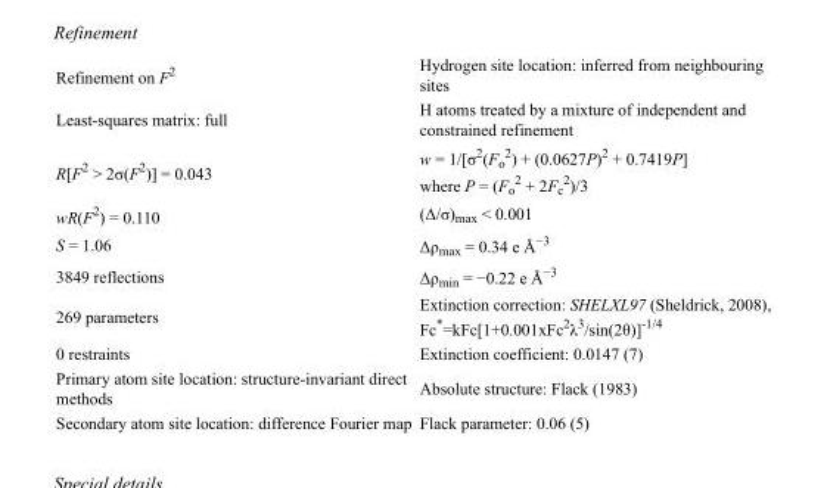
<table><tbody><tr><td>Refinement on F<sup>2</sup></td><td>Hydrogen site location: inferred from neighbouring sites</td></tr><tr><td>Least-squares matrix: full</td><td>H atoms treated by a mixture of independent and constrained refinement</td></tr><tr><td>R[F<sup>2</sup> &gt; 2σ(F<sup>2</sup>)] = 0.043</td><td>w = 1/[σ<sup>2</sup>(F<sub>o</sub> <sup>2</sup>) + (0.0627P)<sup>2</sup> + 0.7419P] where P = (F<sub>o</sub> <sup>2</sup> + 2F<sub>c</sub> <sup>2</sup>)/3</td></tr><tr><td>wR(F<sup>2</sup>) = 0.110</td><td>(Δ/σ)<sub>max</sub> &lt; 0.001</td></tr><tr><td>S = 1.06</td><td>Δρ<sub>max</sub> = 0.34 e Å<sup>−3</sup></td></tr><tr><td>3849 reflections</td><td>Δρ<sub>min</sub> = −0.22 e Å<sup>−3</sup></td></tr><tr><td>269 parameters</td><td>Extinction correction: SHELXL97 (Sheldrick, 2008), Fc*=kFc[1+0.001xFc<sup>2</sup>λ<sup>3</sup>/sin(2θ)]<sup>-1/4</sup></td></tr><tr><td>0 restraints</td><td>Extinction coefficient: 0.0147 (7)</td></tr><tr><td>Primary atom site location: structure-invariant direct methods</td><td>Absolute structure: Flack (1983)</td></tr><tr><td>Secondary atom site location: difference Fourier map</td><td>Flack parameter: 0.06 (5)</td></tr></tbody></table>